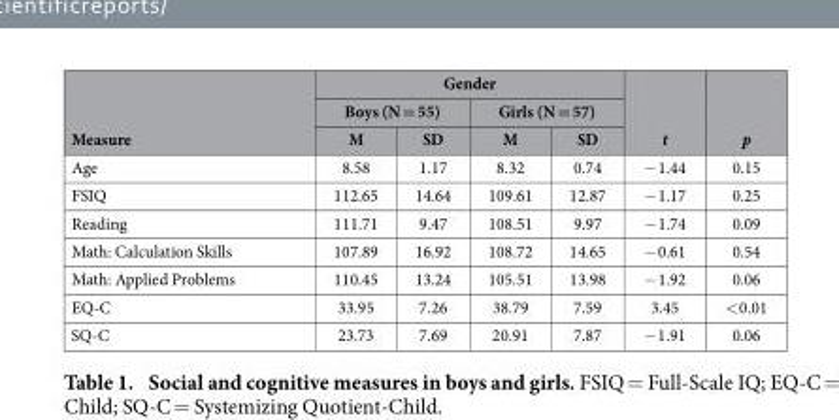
<table><thead><tr><td rowspan="3">Measure</td><td colspan="4">Gender</td><td rowspan="3">t</td><td rowspan="3">p</td></tr><tr><td colspan="2">Boys (N = 55)</td><td colspan="2">Girls (N = 57)</td></tr><tr><td>M</td><td>SD</td><td>M</td><td>SD</td></tr></thead><tbody><tr><td>Age</td><td>8.58</td><td>1.17</td><td>8.32</td><td>0.74</td><td>− 1.44</td><td>0.15</td></tr><tr><td>FSIQ</td><td>112.65</td><td>14.64</td><td>109.61</td><td>12.87</td><td>− 1.17</td><td>0.25</td></tr><tr><td>Reading</td><td>111.71</td><td>9.47</td><td>108.51</td><td>9.97</td><td>− 1.74</td><td>0.09</td></tr><tr><td>Math: Calculation Skills</td><td>107.89</td><td>16.92</td><td>108.72</td><td>14.65</td><td>− 0.61</td><td>0.54</td></tr><tr><td>Math: Applied Problems</td><td>110.45</td><td>13.24</td><td>105.51</td><td>13.98</td><td>− 1.92</td><td>0.06</td></tr><tr><td>EQ-C</td><td>33.95</td><td>7.26</td><td>38.79</td><td>7.59</td><td>3.45</td><td>&lt; 0.01</td></tr><tr><td>SQ-C</td><td>23.73</td><td>7.69</td><td>20.91</td><td>7.87</td><td>− 1.91</td><td>0.06</td></tr></tbody></table>